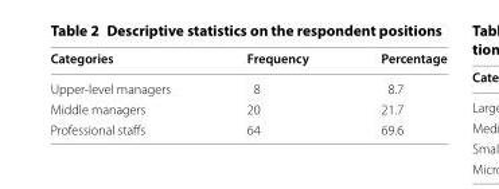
<table><thead><tr><td>Categories</td><td>Frequency</td><td>Percentage</td></tr></thead><tbody><tr><td>Upper-level managers</td><td>8</td><td>8.7</td></tr><tr><td>Middle managers</td><td>20</td><td>21.7</td></tr><tr><td>Professional staffs</td><td>64</td><td>69.6</td></tr></tbody></table>